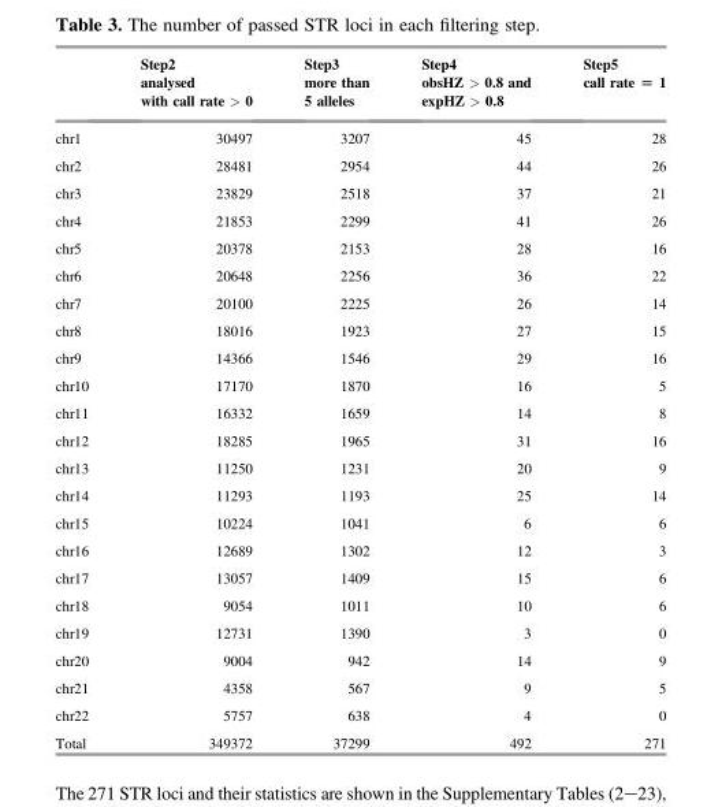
<table><thead><tr><td></td><td>Step2 analysed with call rate &gt; 0</td><td>Step3 more than 5 alleles</td><td>Step4 obsHZ &gt; 0.8 and expHZ &gt; 0.8</td><td>Step5 call rate = 1</td></tr></thead><tbody><tr><td>chr1</td><td>30497</td><td>3207</td><td>45</td><td>28</td></tr><tr><td>chr2</td><td>28481</td><td>2954</td><td>44</td><td>26</td></tr><tr><td>chr3</td><td>23829</td><td>2518</td><td>37</td><td>21</td></tr><tr><td>chr4</td><td>21853</td><td>2299</td><td>41</td><td>26</td></tr><tr><td>chr5</td><td>20378</td><td>2153</td><td>28</td><td>16</td></tr><tr><td>chr6</td><td>20648</td><td>2256</td><td>36</td><td>22</td></tr><tr><td>chr7</td><td>20100</td><td>2225</td><td>26</td><td>14</td></tr><tr><td>chr8</td><td>18016</td><td>1923</td><td>27</td><td>15</td></tr><tr><td>chr9</td><td>14366</td><td>1546</td><td>29</td><td>16</td></tr><tr><td>chr10</td><td>17170</td><td>1870</td><td>16</td><td>5</td></tr><tr><td>chr11</td><td>16332</td><td>1659</td><td>14</td><td>8</td></tr><tr><td>chr12</td><td>18285</td><td>1965</td><td>31</td><td>16</td></tr><tr><td>chr13</td><td>11250</td><td>1231</td><td>20</td><td>9</td></tr><tr><td>chr14</td><td>11293</td><td>1193</td><td>25</td><td>14</td></tr><tr><td>chr15</td><td>10224</td><td>1041</td><td>6</td><td>6</td></tr><tr><td>chr16</td><td>12689</td><td>1302</td><td>12</td><td>3</td></tr><tr><td>chr17</td><td>13057</td><td>1409</td><td>15</td><td>6</td></tr><tr><td>chr18</td><td>9054</td><td>1011</td><td>10</td><td>6</td></tr><tr><td>chr19</td><td>12731</td><td>1390</td><td>3</td><td>0</td></tr><tr><td>chr20</td><td>9004</td><td>942</td><td>14</td><td>9</td></tr><tr><td>chr21</td><td>4358</td><td>567</td><td>9</td><td>5</td></tr><tr><td>chr22</td><td>5757</td><td>638</td><td>4</td><td>0</td></tr><tr><td>Total</td><td>349372</td><td>37299</td><td>492</td><td>271</td></tr></tbody></table>